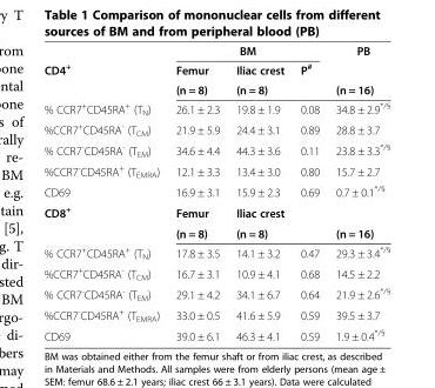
<table><thead><tr><td rowspan="3">CD4<sup>+</sup></td><td colspan="3">BM</td><td rowspan="3">PB (n = 16)</td></tr><tr><td rowspan="2">Femur (n = 8)</td><td rowspan="2">Iliac crest (n = 8)</td><td rowspan="2">P<sup>#</sup></td></tr><tr></tr></thead><tbody><tr><td>% CCR7<sup>+</sup>CD45RA<sup>+</sup> (T<sub>N</sub>)</td><td>26.1 ± 2.3</td><td>19.8 ± 1.9</td><td>0.08</td><td>34.8 ± 2.9<sup>*/§</sup></td></tr><tr><td>%CCR7<sup>+</sup>CD45RA<sup>-</sup> (T<sub>CM</sub>)</td><td>21.9 ± 5.9</td><td>24.4 ± 3.1</td><td>0.89</td><td>28.8 ± 3.7</td></tr><tr><td>% CCR7<sup>-</sup>CD45RA<sup>-</sup> (T<sub>EM</sub>)</td><td>34.6 ± 4.4</td><td>44.3 ± 3.6</td><td>0.11</td><td>23.8 ± 3.3<sup>*/§</sup></td></tr><tr><td>%CCR7<sup>-</sup>CD45RA<sup>+</sup> (T<sub>EMRA</sub>)</td><td>12.1 ± 3.3</td><td>13.4 ± 3.0</td><td>0.80</td><td>15.7 ± 2.7</td></tr><tr><td>CD69</td><td>16.9 ± 3.1</td><td>15.9 ± 2.3</td><td>0.69</td><td>0.7 ± 0.1<sup>*/§</sup></td></tr><tr><td rowspan="2">CD8<sup>+</sup></td><td>Femur</td><td>Iliac crest</td><td></td><td></td></tr><tr><td>(n = 8)</td><td>(n = 8)</td><td></td><td>(n = 16)</td></tr><tr><td>% CCR7<sup>+</sup>CD45RA<sup>+</sup> (T<sub>N</sub>)</td><td>17.8 ± 3.5</td><td>14.1 ± 3.2</td><td>0.47</td><td>29.3 ± 3.4<sup>*/§</sup></td></tr><tr><td>%CCR7<sup>+</sup>CD45RA<sup>-</sup> (T<sub>CM</sub>)</td><td>16.7 ± 3.1</td><td>10.9 ± 4.1</td><td>0.68</td><td>14.5 ± 2.2</td></tr><tr><td>% CCR7<sup>-</sup>CD45RA<sup>-</sup> (T<sub>EM</sub>)</td><td>29.1 ± 4.2</td><td>34.1 ± 6.7</td><td>0.64</td><td>21.9 ± 2.6<sup>*/§</sup></td></tr><tr><td>%CCR7<sup>-</sup>CD45RA<sup>+</sup> (T<sub>EMRA</sub>)</td><td>33.0 ± 0.5</td><td>41.6 ± 5.9</td><td>0.59</td><td>39.5 ± 3.7</td></tr><tr><td>CD69</td><td>39.0 ± 6.1</td><td>46.3 ± 4.1</td><td>0.59</td><td>1.9 ± 0.4<sup>*/§</sup></td></tr></tbody></table>